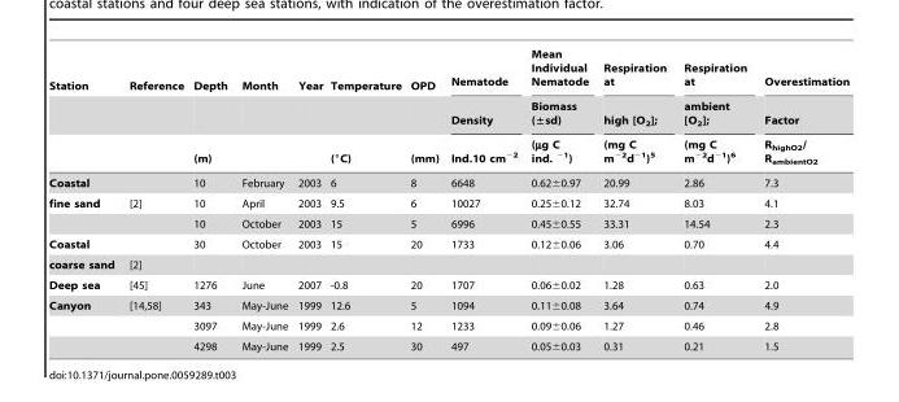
<table><thead><tr><td rowspan="3">Station</td><td rowspan="3">Reference</td><td rowspan="3">Depth (m)</td><td rowspan="3">Month</td><td rowspan="3">Year</td><td rowspan="3">Temperature (°C)</td><td rowspan="3">OPD (mm)</td><td rowspan="3">Nematode Density Ind.10 cm<sup>−2</sup></td><td rowspan="3">Mean Individual Nematode Biomass (±sd) (µg C ind. <sup>−1</sup>)</td><td rowspan="3">Respiration at high [O<sub>2</sub>]; (mg C m<sup>−2</sup>d<sup>−1</sup>)<sup>5</sup></td><td rowspan="3">Respiration at ambient [O<sub>2</sub>]; (mg C m<sup>−2</sup>d<sup>−1</sup>)<sup>6</sup></td><td rowspan="3">Overestimation Factor R<sub>highO2</sub>/ R<sub>ambientO2</sub></td></tr><tr></tr><tr></tr></thead><tbody><tr><td>Coastal</td><td></td><td>10</td><td>February</td><td>2003</td><td>6</td><td>8</td><td>6648</td><td>0.62±0.97</td><td>20.99</td><td>2.86</td><td>7.3</td></tr><tr><td rowspan="2">fine sand</td><td>[2]</td><td>10</td><td>April</td><td>2003</td><td>9.5</td><td>6</td><td>10027</td><td>0.25±0.12</td><td>32.74</td><td>8.03</td><td>4.1</td></tr><tr><td></td><td>10</td><td>October</td><td>2003</td><td>15</td><td>5</td><td>6996</td><td>0.45±0.55</td><td>33.31</td><td>14.54</td><td>2.3</td></tr><tr><td>Coastal</td><td></td><td>30</td><td>October</td><td>2003</td><td>15</td><td>20</td><td>1733</td><td>0.12±0.06</td><td>3.06</td><td>0.70</td><td>4.4</td></tr><tr><td>coarse sand</td><td>[2]</td><td></td><td></td><td></td><td></td><td></td><td></td><td></td><td></td><td></td><td></td></tr><tr><td>Deep sea</td><td>[45]</td><td>1276</td><td>June</td><td>2007</td><td>-0.8</td><td>20</td><td>1707</td><td>0.06±0.02</td><td>1.28</td><td>0.63</td><td>2.0</td></tr><tr><td rowspan="3">Canyon</td><td>[14,58]</td><td>343</td><td>May-June</td><td>1999</td><td>12.6</td><td>5</td><td>1094</td><td>0.11±0.08</td><td>3.64</td><td>0.74</td><td>4.9</td></tr><tr><td></td><td>3097</td><td>May-June</td><td>1999</td><td>2.6</td><td>12</td><td>1233</td><td>0.09±0.06</td><td>1.27</td><td>0.46</td><td>2.8</td></tr><tr><td></td><td>4298</td><td>May-June</td><td>1999</td><td>2.5</td><td>30</td><td>497</td><td>0.05±0.03</td><td>0.31</td><td>0.21</td><td>1.5</td></tr></tbody></table>